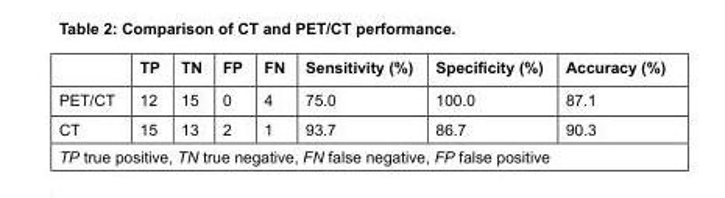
<table><thead><tr><td></td><td>TP</td><td>TN</td><td>FP</td><td>FN</td><td>Sensitivity (%)</td><td>Specificity (%)</td><td>Accuracy (%)</td></tr></thead><tbody><tr><td>PET/CT</td><td>12</td><td>15</td><td>0</td><td>4</td><td>75.0</td><td>100.0</td><td>87.1</td></tr><tr><td>CT</td><td>15</td><td>13</td><td>2</td><td>1</td><td>93.7</td><td>86.7</td><td>90.3</td></tr></tbody></table>